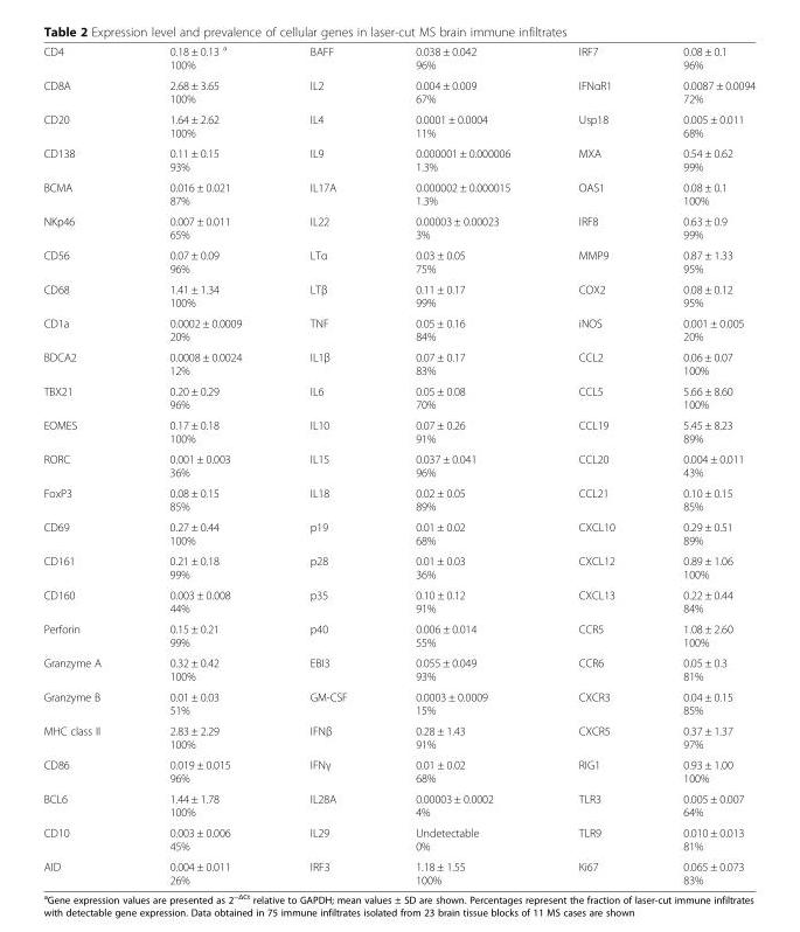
<table><tbody><tr><td>CD4</td><td>0.18 ± 0.13 <sup>a</sup> 100%</td><td>BAFF</td><td>0.038 ± 0.042 96%</td><td>IRF7</td><td>0.08 ± 0.1 96%</td></tr><tr><td>CD8A</td><td>2.68 ± 3.65 100%</td><td>IL2</td><td>0.004 ± 0.009 67%</td><td>IFNαR1</td><td>0.0087 ± 0.0094 72%</td></tr><tr><td>CD20</td><td>1.64 ± 2.62 100%</td><td>IL4</td><td>0.0001 ± 0.0004 11%</td><td>Usp18</td><td>0.005 ± 0.011 68%</td></tr><tr><td>CD138</td><td>0.11 ± 0.15 93%</td><td>IL9</td><td>0.000001 ± 0.000006 1.3%</td><td>MXA</td><td>0.54 ± 0.62 99%</td></tr><tr><td>BCMA</td><td>0.016 ± 0.021 87%</td><td>IL17A</td><td>0.000002 ± 0.000015 1.3%</td><td>OAS1</td><td>0.08 ± 0.1 100%</td></tr><tr><td>NKp46</td><td>0.007 ± 0.011 65%</td><td>IL22</td><td>0.00003 ± 0.00023 3%</td><td>IRF8</td><td>0.63 ± 0.9 99%</td></tr><tr><td>CD56</td><td>0.07 ± 0.09 96%</td><td>LTα</td><td>0.03 ± 0.05 75%</td><td>MMP9</td><td>0.87 ± 1.33 95%</td></tr><tr><td>CD68</td><td>1.41 ± 1.34 100%</td><td>LTβ</td><td>0.11 ± 0.17 99%</td><td>COX2</td><td>0.08 ± 0.12 95%</td></tr><tr><td>CD1a</td><td>0.0002 ± 0.0009 20%</td><td>TNF</td><td>0.05 ± 0.16 84%</td><td>iNOS</td><td>0.001 ± 0.005 20%</td></tr><tr><td>BDCA2</td><td>0.0008 ± 0.0024 12%</td><td>IL1β</td><td>0.07 ± 0.17 83%</td><td>CCL2</td><td>0.06 ± 0.07 100%</td></tr><tr><td>TBX21</td><td>0.20 ± 0.29 96%</td><td>IL6</td><td>0.05 ± 0.08 70%</td><td>CCL5</td><td>5.66 ± 8.60 100%</td></tr><tr><td>EOMES</td><td>0.17 ± 0.18 100%</td><td>IL10</td><td>0.07 ± 0.26 91%</td><td>CCL19</td><td>5.45 ± 8.23 89%</td></tr><tr><td>RORC</td><td>0.001 ± 0.003 36%</td><td>IL15</td><td>0.037 ± 0.041 96%</td><td>CCL20</td><td>0.004 ± 0.011 43%</td></tr><tr><td>FoxP3</td><td>0.08 ± 0.15 85%</td><td>IL18</td><td>0.02 ± 0.05 89%</td><td>CCL21</td><td>0.10 ± 0.15 85%</td></tr><tr><td>CD69</td><td>0.27 ± 0.44 100%</td><td>p19</td><td>0.01 ± 0.02 68%</td><td>CXCL10</td><td>0.29 ± 0.51 89%</td></tr><tr><td>CD161</td><td>0.21 ± 0.18 99%</td><td>p28</td><td>0.01 ± 0.03 36%</td><td>CXCL12</td><td>0.89 ± 1.06 100%</td></tr><tr><td>CD160</td><td>0.003 ± 0.008 44%</td><td>p35</td><td>0.10 ± 0.12 91%</td><td>CXCL13</td><td>0.22 ± 0.44 84%</td></tr><tr><td>Perforin</td><td>0.15 ± 0.21 99%</td><td>p40</td><td>0.006 ± 0.014 55%</td><td>CCR5</td><td>1.08 ± 2.60 100%</td></tr><tr><td>Granzyme A</td><td>0.32 ± 0.42 100%</td><td>EBI3</td><td>0.055 ± 0.049 93%</td><td>CCR6</td><td>0.05 ± 0.3 81%</td></tr><tr><td>Granzyme B</td><td>0.01 ± 0.03 51%</td><td>GM-CSF</td><td>0.0003 ± 0.0009 15%</td><td>CXCR3</td><td>0.04 ± 0.15 85%</td></tr><tr><td>MHC class II</td><td>2.83 ± 2.29 100%</td><td>IFNβ</td><td>0.28 ± 1.43 91%</td><td>CXCR5</td><td>0.37 ± 1.37 97%</td></tr><tr><td>CD86</td><td>0.019 ± 0.015 96%</td><td>IFNγ</td><td>0.01 ± 0.02 68%</td><td>RIG1</td><td>0.93 ± 1.00 100%</td></tr><tr><td>BCL6</td><td>1.44 ± 1.78 100%</td><td>IL28A</td><td>0.00003 ± 0.0002 4%</td><td>TLR3</td><td>0.005 ± 0.007 64%</td></tr><tr><td>CD10</td><td>0.003 ± 0.006 45%</td><td>IL29</td><td>Undetectable 0%</td><td>TLR9</td><td>0.010 ± 0.013 81%</td></tr><tr><td>AID</td><td>0.004 ± 0.011 26%</td><td>IRF3</td><td>1.18 ± 1.55 100%</td><td>Ki67</td><td>0.065 ± 0.073 83%</td></tr></tbody></table>